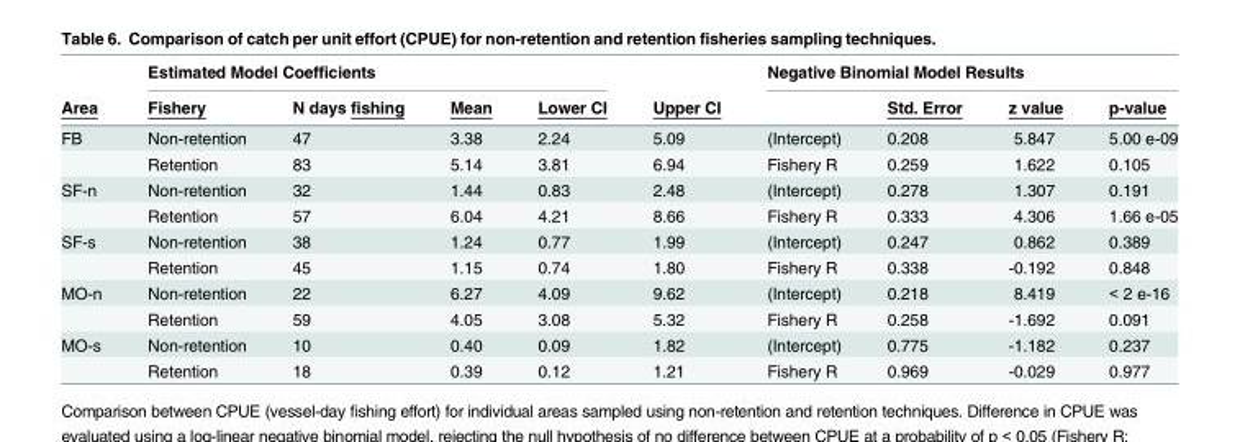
<table><thead><tr><td rowspan="2">Area</td><td colspan="4">Estimated Model Coefficients</td><td rowspan="2">Upper CI</td><td colspan="4">Negative Binomial Model Results</td></tr><tr><td>Fishery</td><td>N days fishing</td><td>Mean</td><td>Lower CI</td><td></td><td>Std. Error</td><td>z value</td><td>p-value</td></tr></thead><tbody><tr><td rowspan="2">FB</td><td>Non-retention</td><td>47</td><td>3.38</td><td>2.24</td><td>5.09</td><td>(Intercept)</td><td>0.208</td><td>5.847</td><td>5.00 e-09</td></tr><tr><td>Retention</td><td>83</td><td>5.14</td><td>3.81</td><td>6.94</td><td>Fishery R</td><td>0.259</td><td>1.622</td><td>0.105</td></tr><tr><td rowspan="2">SF-n</td><td>Non-retention</td><td>32</td><td>1.44</td><td>0.83</td><td>2.48</td><td>(Intercept)</td><td>0.278</td><td>1.307</td><td>0.191</td></tr><tr><td>Retention</td><td>57</td><td>6.04</td><td>4.21</td><td>8.66</td><td>Fishery R</td><td>0.333</td><td>4.306</td><td>1.66 e-05</td></tr><tr><td rowspan="2">SF-s</td><td>Non-retention</td><td>38</td><td>1.24</td><td>0.77</td><td>1.99</td><td>(Intercept)</td><td>0.247</td><td>0.862</td><td>0.389</td></tr><tr><td>Retention</td><td>45</td><td>1.15</td><td>0.74</td><td>1.80</td><td>Fishery R</td><td>0.338</td><td>-0.192</td><td>0.848</td></tr><tr><td rowspan="2">MO-n</td><td>Non-retention</td><td>22</td><td>6.27</td><td>4.09</td><td>9.62</td><td>(Intercept)</td><td>0.218</td><td>8.419</td><td>&lt; 2 e-16</td></tr><tr><td>Retention</td><td>59</td><td>4.05</td><td>3.08</td><td>5.32</td><td>Fishery R</td><td>0.258</td><td>-1.692</td><td>0.091</td></tr><tr><td rowspan="2">MO-s</td><td>Non-retention</td><td>10</td><td>0.40</td><td>0.09</td><td>1.82</td><td>(Intercept)</td><td>0.775</td><td>-1.182</td><td>0.237</td></tr><tr><td>Retention</td><td>18</td><td>0.39</td><td>0.12</td><td>1.21</td><td>Fishery R</td><td>0.969</td><td>-0.029</td><td>0.977</td></tr></tbody></table>